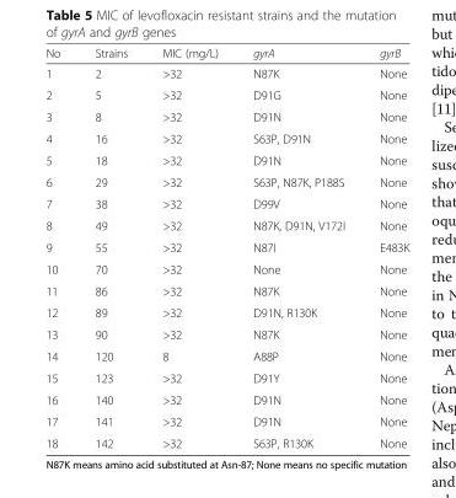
<table><thead><tr><td>No</td><td>Strains</td><td>MIC (mg/L)</td><td>gyrA</td><td>gyrB</td></tr></thead><tbody><tr><td>1</td><td>2</td><td>&gt;32</td><td>N87K</td><td>None</td></tr><tr><td>2</td><td>5</td><td>&gt;32</td><td>D91G</td><td>None</td></tr><tr><td>3</td><td>8</td><td>&gt;32</td><td>D91N</td><td>None</td></tr><tr><td>4</td><td>16</td><td>&gt;32</td><td>S63P, D91N</td><td>None</td></tr><tr><td>5</td><td>18</td><td>&gt;32</td><td>D91N</td><td>None</td></tr><tr><td>6</td><td>29</td><td>&gt;32</td><td>S63P, N87K, P188S</td><td>None</td></tr><tr><td>7</td><td>38</td><td>&gt;32</td><td>D99V</td><td>None</td></tr><tr><td>8</td><td>49</td><td>&gt;32</td><td>N87K, D91N, V172I</td><td>None</td></tr><tr><td>9</td><td>55</td><td>&gt;32</td><td>N87I</td><td>E483K</td></tr><tr><td>10</td><td>70</td><td>&gt;32</td><td>None</td><td>None</td></tr><tr><td>11</td><td>86</td><td>&gt;32</td><td>N87K</td><td>None</td></tr><tr><td>12</td><td>89</td><td>&gt;32</td><td>D91N, R130K</td><td>None</td></tr><tr><td>13</td><td>90</td><td>&gt;32</td><td>N87K</td><td>None</td></tr><tr><td>14</td><td>120</td><td>8</td><td>A88P</td><td>None</td></tr><tr><td>15</td><td>123</td><td>&gt;32</td><td>D91Y</td><td>None</td></tr><tr><td>16</td><td>140</td><td>&gt;32</td><td>D91N</td><td>None</td></tr><tr><td>17</td><td>141</td><td>&gt;32</td><td>D91N</td><td>None</td></tr><tr><td>18</td><td>142</td><td>&gt;32</td><td>S63P, R130K</td><td>None</td></tr></tbody></table>